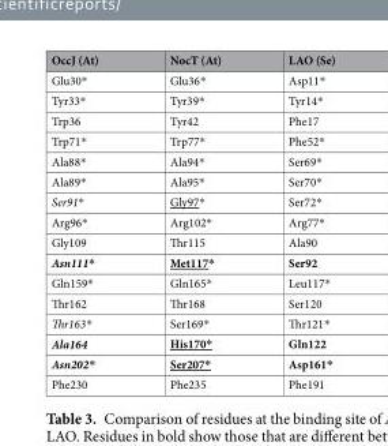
<table><thead><tr><td>OccJ (At)</td><td>NocT (At)</td><td>LAO (Se)</td></tr></thead><tbody><tr><td>Glu30*</td><td>Glu36*</td><td>Asp11*</td></tr><tr><td>Tyr33*</td><td>Tyr39*</td><td>Tyr14*</td></tr><tr><td>Trp36</td><td>Tyr42</td><td>Phe17</td></tr><tr><td>Trp71*</td><td>Trp77*</td><td>Phe52*</td></tr><tr><td>Ala88*</td><td>Ala94*</td><td>Ser69*</td></tr><tr><td>Ala89*</td><td>Ala95*</td><td>Ser70*</td></tr><tr><td>Ser91*</td><td>Gly97*</td><td>Ser72*</td></tr><tr><td>Arg96*</td><td>Arg102*</td><td>Arg77*</td></tr><tr><td>Gly109</td><td>Thr115</td><td>Ala90</td></tr><tr><td>Asn111*</td><td>Met117*</td><td>Ser92</td></tr><tr><td>Gln159*</td><td>Gln165*</td><td>Leu117*</td></tr><tr><td>Thr162</td><td>Thr168</td><td>Ser120</td></tr><tr><td>Thr163*</td><td>Ser169*</td><td>Thr121*</td></tr><tr><td>Ala164</td><td>His170*</td><td>Gln122</td></tr><tr><td>Asn202*</td><td>Ser207*</td><td>Asp161*</td></tr><tr><td>Phe230</td><td>Phe235</td><td>Phe191</td></tr></tbody></table>